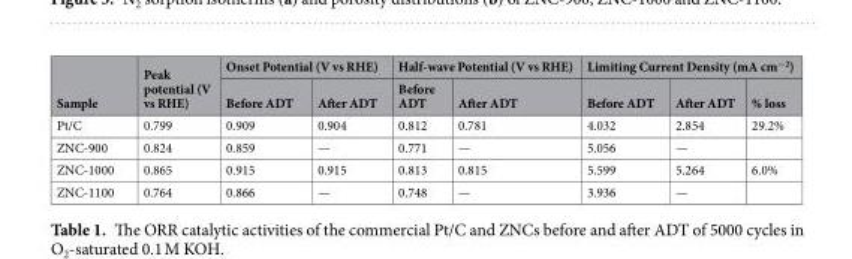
<table><thead><tr><td rowspan="2">Sample</td><td rowspan="2">Peak potential (V vs RHE)</td><td colspan="2">Onset Potential (V vs RHE)</td><td colspan="2">Half-wave Potential (V vs RHE)</td><td colspan="3">Limiting Current Density (mA cm<sup>−2</sup>)</td></tr><tr><td>Before ADT</td><td>After ADT</td><td>Before ADT</td><td>After ADT</td><td>Before ADT</td><td>After ADT</td><td>% loss</td></tr></thead><tbody><tr><td>Pt/C</td><td>0.799</td><td>0.909</td><td>0.904</td><td>0.812</td><td>0.781</td><td>4.032</td><td>2.854</td><td>29.2%</td></tr><tr><td>ZNC-900</td><td>0.824</td><td>0.859</td><td>—</td><td>0.771</td><td>—</td><td>5.056</td><td>—</td><td></td></tr><tr><td>ZNC-1000</td><td>0.865</td><td>0.915</td><td>0.915</td><td>0.813</td><td>0.815</td><td>5.599</td><td>5.264</td><td>6.0%</td></tr><tr><td>ZNC-1100</td><td>0.764</td><td>0.866</td><td>—</td><td>0.748</td><td>—</td><td>3.936</td><td>—</td><td></td></tr></tbody></table>